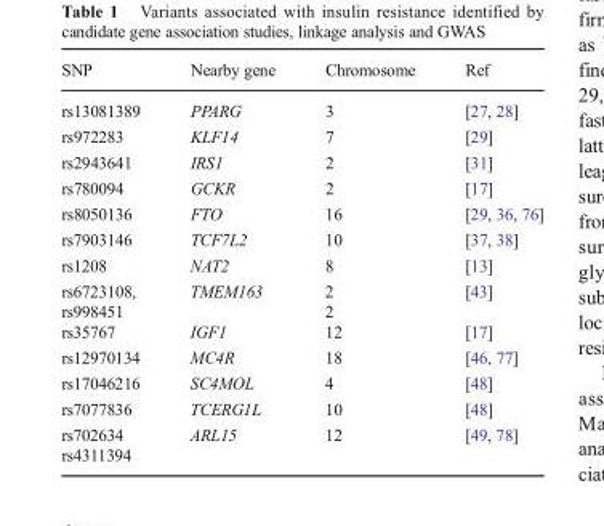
<table><thead><tr><td>SNP</td><td>Nearby gene</td><td>Chromosome</td><td>Ref</td></tr></thead><tbody><tr><td>rs13081389</td><td>PPARG</td><td>3</td><td>[27, 28]</td></tr><tr><td>rs972283</td><td>KLF14</td><td>7</td><td>[29]</td></tr><tr><td>rs2943641</td><td>IRS1</td><td>2</td><td>[31]</td></tr><tr><td>rs780094</td><td>GCKR</td><td>2</td><td>[17]</td></tr><tr><td>rs8050136</td><td>FTO</td><td>16</td><td>[29, 36, 76]</td></tr><tr><td>rs7903146</td><td>TCF7L2</td><td>10</td><td>[37, 38]</td></tr><tr><td>rs1208</td><td>NAT2</td><td>8</td><td>[13]</td></tr><tr><td>rs6723108, rs998451</td><td>TMEM163</td><td>2 2</td><td>[43]</td></tr><tr><td>rs35767</td><td>IGF1</td><td>12</td><td>[17]</td></tr><tr><td>rs12970134</td><td>MC4R</td><td>18</td><td>[46, 77]</td></tr><tr><td>rs17046216</td><td>SC4MOL</td><td>4</td><td>[48]</td></tr><tr><td>rs7077836</td><td>TCERG1L</td><td>10</td><td>[48]</td></tr><tr><td>rs702634 rs4311394</td><td>ARL15</td><td>12</td><td>[49, 78]</td></tr></tbody></table>